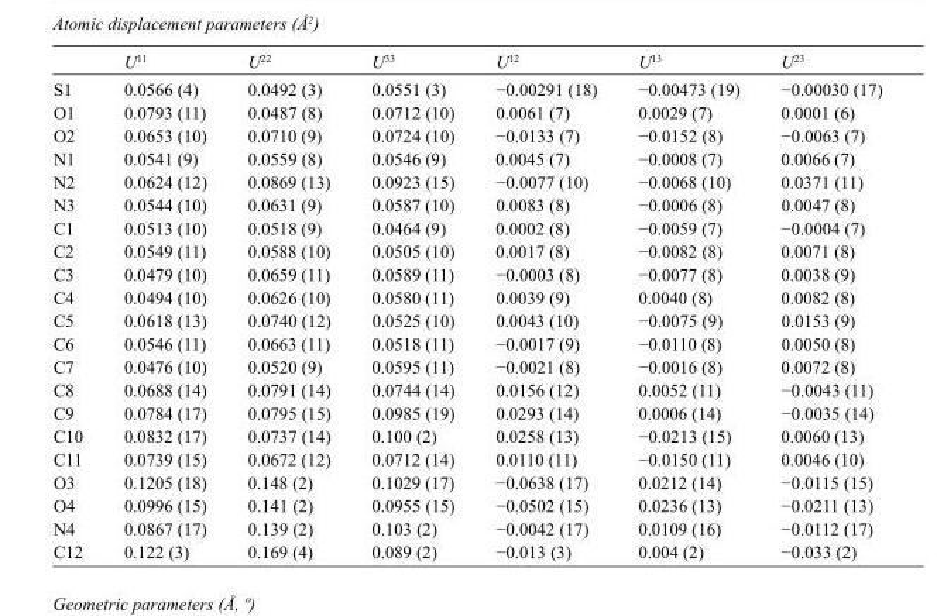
<table><thead><tr><td></td><td>U<sup>11</sup></td><td>U<sup>22</sup></td><td>U<sup>33</sup></td><td>U<sup>12</sup></td><td>U<sup>13</sup></td><td>U<sup>23</sup></td></tr></thead><tbody><tr><td>S1</td><td>0.0566 (4)</td><td>0.0492 (3)</td><td>0.0551 (3)</td><td>−0.00291 (18)</td><td>−0.00473 (19)</td><td>−0.00030 (17)</td></tr><tr><td>O1</td><td>0.0793 (11)</td><td>0.0487 (8)</td><td>0.0712 (10)</td><td>0.0061 (7)</td><td>0.0029 (7)</td><td>0.0001 (6)</td></tr><tr><td>O2</td><td>0.0653 (10)</td><td>0.0710 (9)</td><td>0.0724 (10)</td><td>−0.0133 (7)</td><td>−0.0152 (8)</td><td>−0.0063 (7)</td></tr><tr><td>N1</td><td>0.0541 (9)</td><td>0.0559 (8)</td><td>0.0546 (9)</td><td>0.0045 (7)</td><td>−0.0008 (7)</td><td>0.0066 (7)</td></tr><tr><td>N2</td><td>0.0624 (12)</td><td>0.0869 (13)</td><td>0.0923 (15)</td><td>−0.0077 (10)</td><td>−0.0068 (10)</td><td>0.0371 (11)</td></tr><tr><td>N3</td><td>0.0544 (10)</td><td>0.0631 (9)</td><td>0.0587 (10)</td><td>0.0083 (8)</td><td>−0.0006 (8)</td><td>0.0047 (8)</td></tr><tr><td>C1</td><td>0.0513 (10)</td><td>0.0518 (9)</td><td>0.0464 (9)</td><td>0.0002 (8)</td><td>−0.0059 (7)</td><td>−0.0004 (7)</td></tr><tr><td>C2</td><td>0.0549 (11)</td><td>0.0588 (10)</td><td>0.0505 (10)</td><td>0.0017 (8)</td><td>−0.0082 (8)</td><td>0.0071 (8)</td></tr><tr><td>C3</td><td>0.0479 (10)</td><td>0.0659 (11)</td><td>0.0589 (11)</td><td>−0.0003 (8)</td><td>−0.0077 (8)</td><td>0.0038 (9)</td></tr><tr><td>C4</td><td>0.0494 (10)</td><td>0.0626 (10)</td><td>0.0580 (11)</td><td>0.0039 (9)</td><td>0.0040 (8)</td><td>0.0082 (8)</td></tr><tr><td>C5</td><td>0.0618 (13)</td><td>0.0740 (12)</td><td>0.0525 (10)</td><td>0.0043 (10)</td><td>−0.0075 (9)</td><td>0.0153 (9)</td></tr><tr><td>C6</td><td>0.0546 (11)</td><td>0.0663 (11)</td><td>0.0518 (11)</td><td>−0.0017 (9)</td><td>−0.0110 (8)</td><td>0.0050 (8)</td></tr><tr><td>C7</td><td>0.0476 (10)</td><td>0.0520 (9)</td><td>0.0595 (11)</td><td>−0.0021 (8)</td><td>−0.0016 (8)</td><td>0.0072 (8)</td></tr><tr><td>C8</td><td>0.0688 (14)</td><td>0.0791 (14)</td><td>0.0744 (14)</td><td>0.0156 (12)</td><td>0.0052 (11)</td><td>−0.0043 (11)</td></tr><tr><td>C9</td><td>0.0784 (17)</td><td>0.0795 (15)</td><td>0.0985 (19)</td><td>0.0293 (14)</td><td>0.0006 (14)</td><td>−0.0035 (14)</td></tr><tr><td>C10</td><td>0.0832 (17)</td><td>0.0737 (14)</td><td>0.100 (2)</td><td>0.0258 (13)</td><td>−0.0213 (15)</td><td>0.0060 (13)</td></tr><tr><td>C11</td><td>0.0739 (15)</td><td>0.0672 (12)</td><td>0.0712 (14)</td><td>0.0110 (11)</td><td>−0.0150 (11)</td><td>0.0046 (10)</td></tr><tr><td>O3</td><td>0.1205 (18)</td><td>0.148 (2)</td><td>0.1029 (17)</td><td>−0.0638 (17)</td><td>0.0212 (14)</td><td>−0.0115 (15)</td></tr><tr><td>O4</td><td>0.0996 (15)</td><td>0.141 (2)</td><td>0.0955 (15)</td><td>−0.0502 (15)</td><td>0.0236 (13)</td><td>−0.0211 (13)</td></tr><tr><td>N4</td><td>0.0867 (17)</td><td>0.139 (2)</td><td>0.103 (2)</td><td>−0.0042 (17)</td><td>0.0109 (16)</td><td>−0.0112 (17)</td></tr><tr><td>C12</td><td>0.122 (3)</td><td>0.169 (4)</td><td>0.089 (2)</td><td>−0.013 (3)</td><td>0.004 (2)</td><td>−0.033 (2)</td></tr></tbody></table>